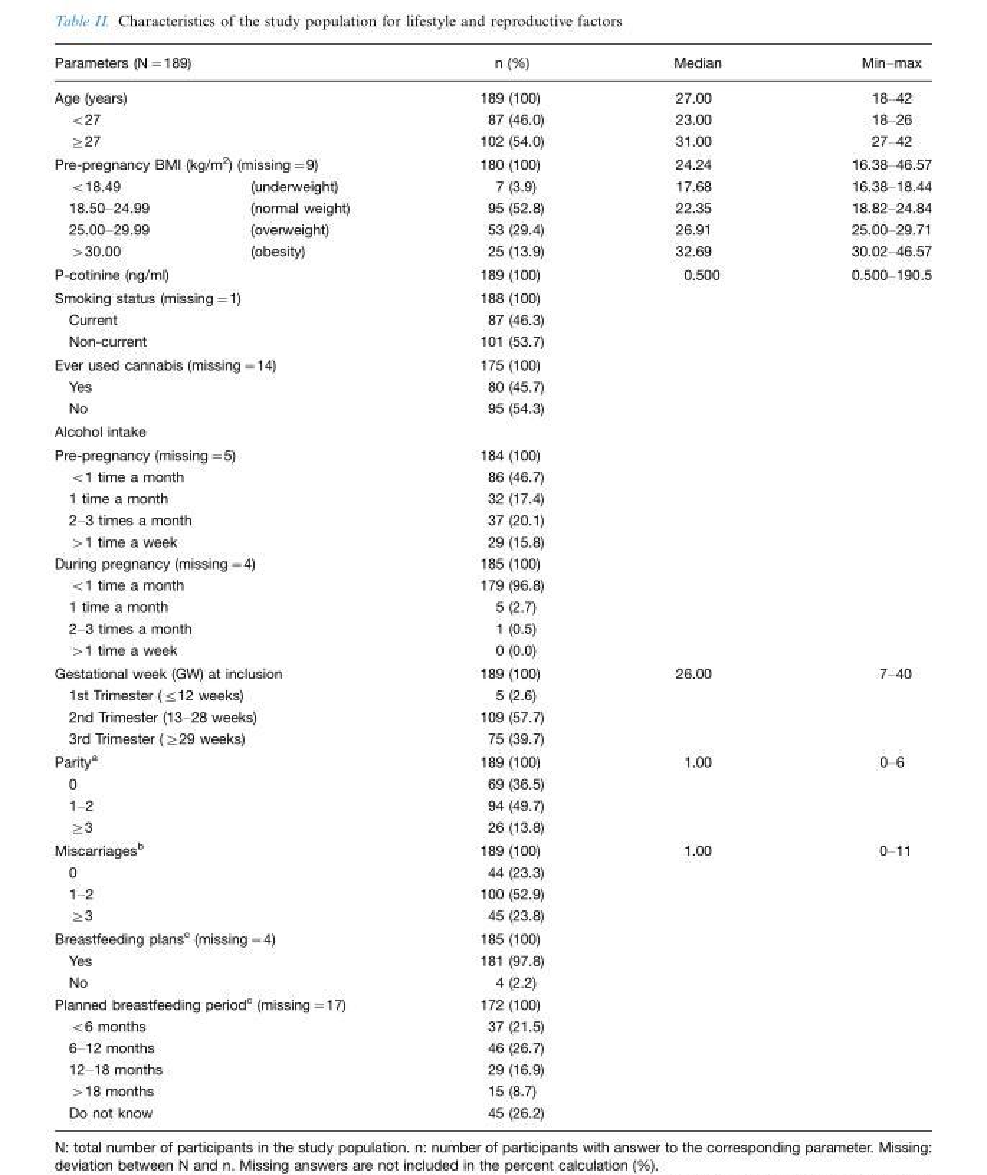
<table><thead><tr><td>Parameters (N=189)</td><td>n (%)</td><td>Median</td><td>Min–max</td></tr></thead><tbody><tr><td>Age (years)</td><td>189 (100)</td><td>27.00</td><td>18–42</td></tr><tr><td>&lt;27</td><td>87 (46.0)</td><td>23.00</td><td>18–26</td></tr><tr><td>≥27</td><td>102 (54.0)</td><td>31.00</td><td>27–42</td></tr><tr><td>Pre-pregnancy BMI (kg/m<sup>2</sup>) (missing=9)</td><td>180 (100)</td><td>24.24</td><td>16.38–46.57</td></tr><tr><td>&lt;18.49 (underweight)</td><td>7 (3.9)</td><td>17.68</td><td>16.38–18.44</td></tr><tr><td>18.50–24.99 (normal weight)</td><td>95 (52.8)</td><td>22.35</td><td>18.82–24.84</td></tr><tr><td>25.00–29.99 (overweight)</td><td>53 (29.4)</td><td>26.91</td><td>25.00–29.71</td></tr><tr><td>&gt;30.00 (obesity)</td><td>25 (13.9)</td><td>32.69</td><td>30.02–46.57</td></tr><tr><td>P-cotinine (ng/ml)</td><td>189 (100)</td><td>0.500</td><td>0.500–190.5</td></tr><tr><td>Smoking status (missing=1)</td><td>188 (100)</td><td></td><td></td></tr><tr><td>Current</td><td>87 (46.3)</td><td></td><td></td></tr><tr><td>Non-current</td><td>101 (53.7)</td><td></td><td></td></tr><tr><td>Ever used cannabis (missing=14)</td><td>175 (100)</td><td></td><td></td></tr><tr><td>Yes</td><td>80 (45.7)</td><td></td><td></td></tr><tr><td>No</td><td>95 (54.3)</td><td></td><td></td></tr><tr><td colspan="4">Alcohol intake</td></tr><tr><td>Pre-pregnancy (missing=5)</td><td>184 (100)</td><td></td><td></td></tr><tr><td>&lt;1 time a month</td><td>86 (46.7)</td><td></td><td></td></tr><tr><td>1 time a month</td><td>32 (17.4)</td><td></td><td></td></tr><tr><td>2–3 times a month</td><td>37 (20.1)</td><td></td><td></td></tr><tr><td>&gt;1 time a week</td><td>29 (15.8)</td><td></td><td></td></tr><tr><td>During pregnancy (missing=4)</td><td>185 (100)</td><td></td><td></td></tr><tr><td>&lt;1 time a month</td><td>179 (96.8)</td><td></td><td></td></tr><tr><td>1 time a month</td><td>5 (2.7)</td><td></td><td></td></tr><tr><td>2–3 times a month</td><td>1 (0.5)</td><td></td><td></td></tr><tr><td>&gt;1 time a week</td><td>0 (0.0)</td><td></td><td></td></tr><tr><td>Gestational week (GW) at inclusion</td><td>189 (100)</td><td>26.00</td><td>7–40</td></tr><tr><td>1st Trimester (≤12 weeks)</td><td>5 (2.6)</td><td></td><td></td></tr><tr><td>2nd Trimester (13–28 weeks)</td><td>109 (57.7)</td><td></td><td></td></tr><tr><td>3rd Trimester (≥29 weeks)</td><td>75 (39.7)</td><td></td><td></td></tr><tr><td>Parity<sup>a</sup></td><td>189 (100)</td><td>1.00</td><td>0–6</td></tr><tr><td>0</td><td>69 (36.5)</td><td></td><td></td></tr><tr><td>1–2</td><td>94 (49.7)</td><td></td><td></td></tr><tr><td>≥3</td><td>26 (13.8)</td><td></td><td></td></tr><tr><td>Miscarriages<sup>b</sup></td><td>189 (100)</td><td>1.00</td><td>0–11</td></tr><tr><td>0</td><td>44 (23.3)</td><td></td><td></td></tr><tr><td>1–2</td><td>100 (52.9)</td><td></td><td></td></tr><tr><td>≥3</td><td>45 (23.8)</td><td></td><td></td></tr><tr><td>Breastfeeding plans<sup>c</sup> (missing=4)</td><td>185 (100)</td><td></td><td></td></tr><tr><td>Yes</td><td>181 (97.8)</td><td></td><td></td></tr><tr><td>No</td><td>4 (2.2)</td><td></td><td></td></tr><tr><td>Planned breastfeeding period<sup>c</sup> (missing=17)</td><td>172 (100)</td><td></td><td></td></tr><tr><td>&lt;6 months</td><td>37 (21.5)</td><td></td><td></td></tr><tr><td>6–12 months</td><td>46 (26.7)</td><td></td><td></td></tr><tr><td>12–18 months</td><td>29 (16.9)</td><td></td><td></td></tr><tr><td>&gt;18 months</td><td>15 (8.7)</td><td></td><td></td></tr><tr><td>Do not know</td><td>45 (26.2)</td><td></td><td></td></tr></tbody></table>